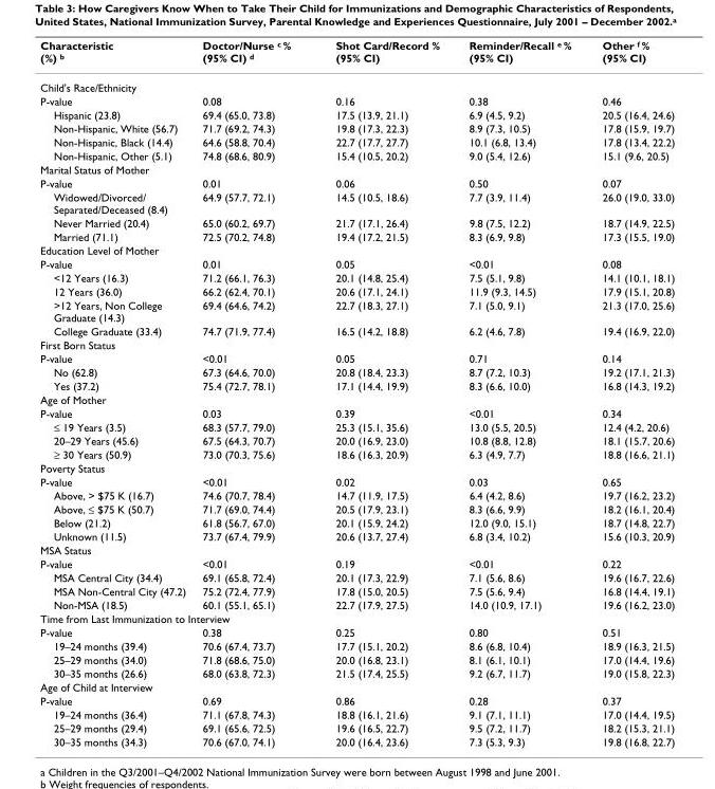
<table><thead><tr><td>Characteristic (%) <sup>b</sup></td><td>Doctor/Nurse <sup>c</sup> % (95% CI) <sup>d</sup></td><td>Shot Card/Record % (95% CI)</td><td>Reminder/Recall <sup>e</sup> % (95% CI)</td><td>Other <sup>f</sup> % (95% CI)</td></tr></thead><tbody><tr><td colspan="5">Child&#x27;s Race/Ethnicity</td></tr><tr><td>P-value</td><td>0.08</td><td>0.16</td><td>0.38</td><td>0.46</td></tr><tr><td>Hispanic (23.8)</td><td>69.4 (65.0, 73.8)</td><td>17.5 (13.9, 21.1)</td><td>6.9 (4.5, 9.2)</td><td>20.5 (16.4, 24.6)</td></tr><tr><td>Non-Hispanic, White (56.7)</td><td>71.7 (69.2, 74.3)</td><td>19.8 (17.3, 22.3)</td><td>8.9 (7.3, 10.5)</td><td>17.8 (15.9, 19.7)</td></tr><tr><td>Non-Hispanic, Black (14.4)</td><td>64.6 (58.8, 70.4)</td><td>22.7 (17.7, 27.7)</td><td>10.1 (6.8, 13.4)</td><td>17.8 (13.4, 22.2)</td></tr><tr><td>Non-Hispanic, Other (5.1)</td><td>74.8 (68.6, 80.9)</td><td>15.4 (10.5, 20.2)</td><td>9.0 (5.4, 12.6)</td><td>15.1 (9.6, 20.5)</td></tr><tr><td colspan="5">Marital Status of Mother</td></tr><tr><td>P-value</td><td>0.01</td><td>0.06</td><td>0.50</td><td>0.07</td></tr><tr><td>Widowed/Divorced/ Separated/Deceased (8.4)</td><td>64.9 (57.7, 72.1)</td><td>14.5 (10.5, 18.6)</td><td>7.7 (3.9, 11.4)</td><td>26.0 (19.0, 33.0)</td></tr><tr><td>Never Married (20.4)</td><td>65.0 (60.2, 69.7)</td><td>21.7 (17.1, 26.4)</td><td>9.8 (7.5, 12.2)</td><td>18.7 (14.9, 22.5)</td></tr><tr><td>Married (71.1)</td><td>72.5 (70.2, 74.8)</td><td>19.4 (17.2, 21.5)</td><td>8.3 (6.9, 9.8)</td><td>17.3 (15.5, 19.0)</td></tr><tr><td colspan="5">Education Level of Mother</td></tr><tr><td>P-value</td><td>0.01</td><td>0.05</td><td>&lt;0.01</td><td>0.08</td></tr><tr><td>&lt;12 Years (16.3)</td><td>71.2 (66.1, 76.3)</td><td>20.1 (14.8, 25.4)</td><td>7.5 (5.1, 9.8)</td><td>14.1 (10.1, 18.1)</td></tr><tr><td>12 Years (36.0)</td><td>66.2 (62.4, 70.1)</td><td>20.6 (17.1, 24.1)</td><td>11.9 (9.3, 14.5)</td><td>17.9 (15.1, 20.8)</td></tr><tr><td>&gt;12 Years, Non College Graduate (14.3)</td><td>69.4 (64.6, 74.2)</td><td>22.7 (18.3, 27.1)</td><td>7.1 (5.0, 9.1)</td><td>21.3 (17.0, 25.6)</td></tr><tr><td>College Graduate (33.4)</td><td>74.7 (71.9, 77.4)</td><td>16.5 (14.2, 18.8)</td><td>6.2 (4.6, 7.8)</td><td>19.4 (16.9, 22.0)</td></tr><tr><td colspan="5">First Born Status</td></tr><tr><td>P-value</td><td>&lt;0.01</td><td>0.05</td><td>0.71</td><td>0.14</td></tr><tr><td>No (62.8)</td><td>67.3 (64.6, 70.0)</td><td>20.8 (18.4, 23.3)</td><td>8.7 (7.2, 10.3)</td><td>19.2 (17.1, 21.3)</td></tr><tr><td>Yes (37.2)</td><td>75.4 (72.7, 78.1)</td><td>17.1 (14.4, 19.9)</td><td>8.3 (6.6, 10.0)</td><td>16.8 (14.3, 19.2)</td></tr><tr><td colspan="5">Age of Mother</td></tr><tr><td>P-value</td><td>0.03</td><td>0.39</td><td>&lt;0.01</td><td>0.34</td></tr><tr><td>≤ 19 Years (3.5)</td><td>68.3 (57.7, 79.0)</td><td>25.3 (15.1, 35.6)</td><td>13.0 (5.5, 20.5)</td><td>12.4 (4.2, 20.6)</td></tr><tr><td>20–29 Years (45.6)</td><td>67.5 (64.3, 70.7)</td><td>20.0 (16.9, 23.0)</td><td>10.8 (8.8, 12.8)</td><td>18.1 (15.7, 20.6)</td></tr><tr><td>≥ 30 Years (50.9)</td><td>73.0 (70.3, 75.6)</td><td>18.6 (16.3, 20.9)</td><td>6.3 (4.9, 7.7)</td><td>18.8 (16.6, 21.1)</td></tr><tr><td colspan="5">Poverty Status</td></tr><tr><td>P-value</td><td>&lt;0.01</td><td>0.02</td><td>0.03</td><td>0.65</td></tr><tr><td>Above, &gt; $75 K (16.7)</td><td>74.6 (70.7, 78.4)</td><td>14.7 (11.9, 17.5)</td><td>6.4 (4.2, 8.6)</td><td>19.7 (16.2, 23.2)</td></tr><tr><td>Above, ≤ $75 K (50.7)</td><td>71.7 (69.0, 74.4)</td><td>20.5 (17.9, 23.1)</td><td>8.3 (6.6, 9.9)</td><td>18.2 (16.1, 20.4)</td></tr><tr><td>Below (21.2)</td><td>61.8 (56.7, 67.0)</td><td>20.1 (15.9, 24.2)</td><td>12.0 (9.0, 15.1)</td><td>18.7 (14.8, 22.7)</td></tr><tr><td>Unknown (11.5)</td><td>73.7 (67.4, 79.9)</td><td>20.6 (13.7, 27.4)</td><td>6.8 (3.4, 10.2)</td><td>15.6 (10.3, 20.9)</td></tr><tr><td colspan="5">MSA Status</td></tr><tr><td>P-value</td><td>&lt;0.01</td><td>0.19</td><td>&lt;0.01</td><td>0.22</td></tr><tr><td>MSA Central City (34.4)</td><td>69.1 (65.8, 72.4)</td><td>20.1 (17.3, 22.9)</td><td>7.1 (5.6, 8.6)</td><td>19.6 (16.7, 22.6)</td></tr><tr><td>MSA Non-Central City (47.2)</td><td>75.2 (72.4, 77.9)</td><td>17.8 (15.0, 20.5)</td><td>7.5 (5.6, 9.4)</td><td>16.8 (14.4, 19.1)</td></tr><tr><td>Non-MSA (18.5)</td><td>60.1 (55.1, 65.1)</td><td>22.7 (17.9, 27.5)</td><td>14.0 (10.9, 17.1)</td><td>19.6 (16.2, 23.0)</td></tr><tr><td colspan="5">Time from Last Immunization to Interview</td></tr><tr><td>P-value</td><td>0.38</td><td>0.25</td><td>0.80</td><td>0.51</td></tr><tr><td>19–24 months (39.4)</td><td>70.6 (67.4, 73.7)</td><td>17.7 (15.1, 20.2)</td><td>8.6 (6.8, 10.4)</td><td>18.9 (16.3, 21.5)</td></tr><tr><td>25–29 months (34.0)</td><td>71.8 (68.6, 75.0)</td><td>20.0 (16.8, 23.1)</td><td>8.1 (6.1, 10.1)</td><td>17.0 (14.4, 19.6)</td></tr><tr><td>30–35 months (26.6)</td><td>68.0 (63.8, 72.3)</td><td>21.5 (17.4, 25.5)</td><td>9.2 (6.7, 11.7)</td><td>19.0 (15.8, 22.3)</td></tr><tr><td colspan="5">Age of Child at Interview</td></tr><tr><td>P-value</td><td>0.69</td><td>0.86</td><td>0.28</td><td>0.37</td></tr><tr><td>19–24 months (36.4)</td><td>71.1 (67.8, 74.3)</td><td>18.8 (16.1, 21.6)</td><td>9.1 (7.1, 11.1)</td><td>17.0 (14.4, 19.5)</td></tr><tr><td>25–29 months (29.4)</td><td>69.1 (65.6, 72.5)</td><td>19.6 (16.5, 22.7)</td><td>9.5 (7.2, 11.7)</td><td>18.2 (15.3, 21.1)</td></tr><tr><td>30–35 months (34.3)</td><td>70.6 (67.0, 74.1)</td><td>20.0 (16.4, 23.6)</td><td>7.3 (5.3, 9.3)</td><td>19.8 (16.8, 22.7)</td></tr></tbody></table>